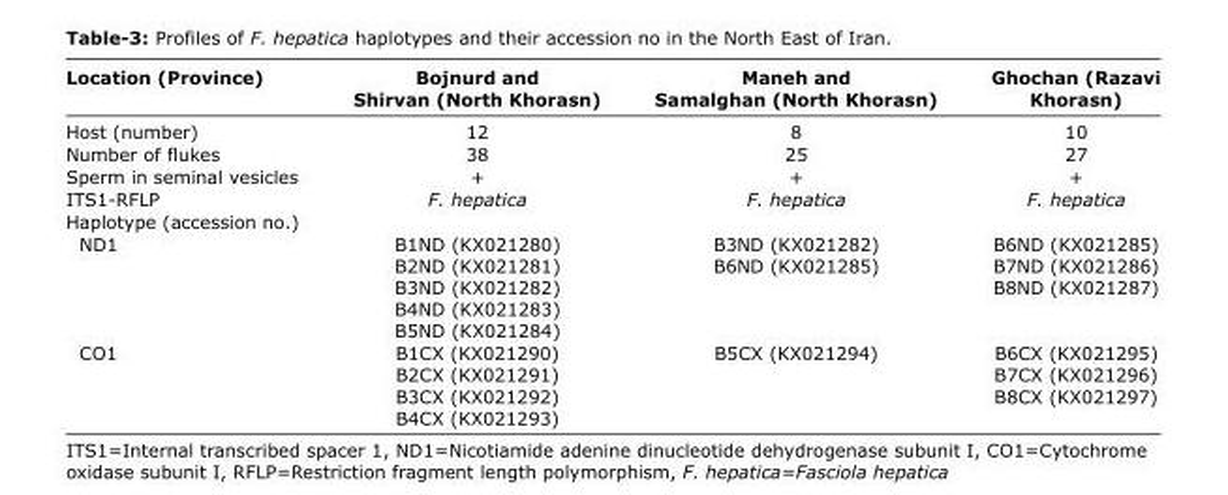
<table><thead><tr><td>Location (Province)</td><td>Bojnurd and Shirvan (North Khorasn)</td><td>Maneh and Samalghan (North Khorasn)</td><td>Ghochan (Razavi Khorasn)</td></tr></thead><tbody><tr><td>Host (number)</td><td>12</td><td>8</td><td>10</td></tr><tr><td>Number of flukes</td><td>38</td><td>25</td><td>27</td></tr><tr><td>Sperm in seminal vesicles</td><td>+</td><td>+</td><td>+</td></tr><tr><td>ITS1-RFLP</td><td>F. hepatica</td><td>F. hepatica</td><td>F. hepatica</td></tr><tr><td colspan="4">Haplotype (accession no.)</td></tr><tr><td>ND1</td><td>B1ND (KX021280) B2ND (KX021281) B3ND (KX021282) B4ND (KX021283) B5ND (KX021284)</td><td>B3ND (KX021282) B6ND (KX021285)</td><td>B6ND (KX021285) B7ND (KX021286) B8ND (KX021287)</td></tr><tr><td>CO1</td><td>B1CX (KX021290) B2CX (KX021291) B3CX (KX021292) B4CX (KX021293)</td><td>B5CX (KX021294)</td><td>B6CX (KX021295) B7CX (KX021296) B8CX (KX021297)</td></tr></tbody></table>